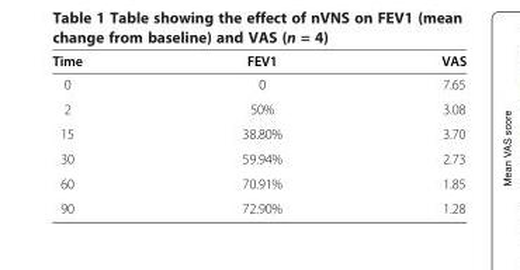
<table><thead><tr><td>Time</td><td>FEV1</td><td>VAS</td></tr></thead><tbody><tr><td>0</td><td>0</td><td>7.65</td></tr><tr><td>2</td><td>50%</td><td>3.08</td></tr><tr><td>15</td><td>38.80%</td><td>3.70</td></tr><tr><td>30</td><td>59.94%</td><td>2.73</td></tr><tr><td>60</td><td>70.91%</td><td>1.85</td></tr><tr><td>90</td><td>72.90%</td><td>1.28</td></tr></tbody></table>